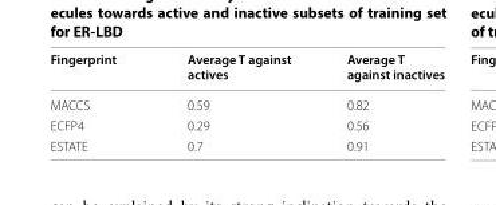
<table><thead><tr><td>Fingerprint</td><td>Average T against actives</td><td>Average T against inactives</td></tr></thead><tbody><tr><td>MACCS</td><td>0.59</td><td>0.82</td></tr><tr><td>ECFP4</td><td>0.29</td><td>0.56</td></tr><tr><td>ESTATE</td><td>0.7</td><td>0.91</td></tr></tbody></table>